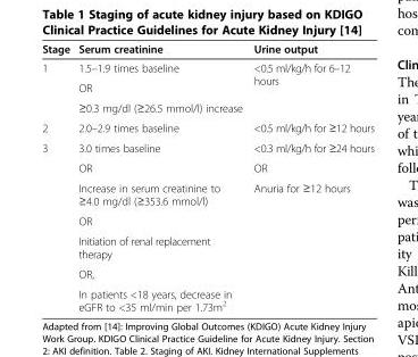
<table><thead><tr><td>Stage</td><td>Serum creatinine</td><td>Urine output</td></tr></thead><tbody><tr><td rowspan="3">1</td><td>1.5–1.9 times baseline</td><td rowspan="3">&lt;0.5 ml/kg/h for 6–12 hours</td></tr><tr><td>OR</td></tr><tr><td>≥0.3 mg/dl (≥26.5 mmol/l) increase</td></tr><tr><td>2</td><td>2.0–2.9 times baseline</td><td>&lt;0.5 ml/kg/h for ≥12 hours</td></tr><tr><td rowspan="7">3</td><td>3.0 times baseline</td><td>&lt;0.3 ml/kg/h for ≥24 hours</td></tr><tr><td>OR</td><td>OR</td></tr><tr><td>Increase in serum creatinine to ≥4.0 mg/dl (≥353.6 mmol/l)</td><td rowspan="5">Anuria for ≥12 hours</td></tr><tr><td>OR</td></tr><tr><td>Initiation of renal replacement therapy</td></tr><tr><td>OR,</td></tr><tr><td>In patients &lt;18 years, decrease in eGFR to &lt;35 ml/min per 1.73m<sup>2</sup></td></tr></tbody></table>